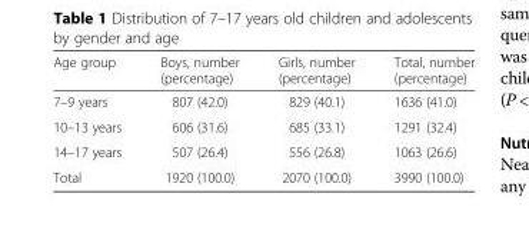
<table><thead><tr><td>Age group</td><td>Boys, number (percentage)</td><td>Girls, number (percentage)</td><td>Total, number (percentage)</td></tr></thead><tbody><tr><td>7–9 years</td><td>807 (42.0)</td><td>829 (40.1)</td><td>1636 (41.0)</td></tr><tr><td>10–13 years</td><td>606 (31.6)</td><td>685 (33.1)</td><td>1291 (32.4)</td></tr><tr><td>14–17 years</td><td>507 (26.4)</td><td>556 (26.8)</td><td>1063 (26.6)</td></tr><tr><td>Total</td><td>1920 (100.0)</td><td>2070 (100.0)</td><td>3990 (100.0)</td></tr></tbody></table>